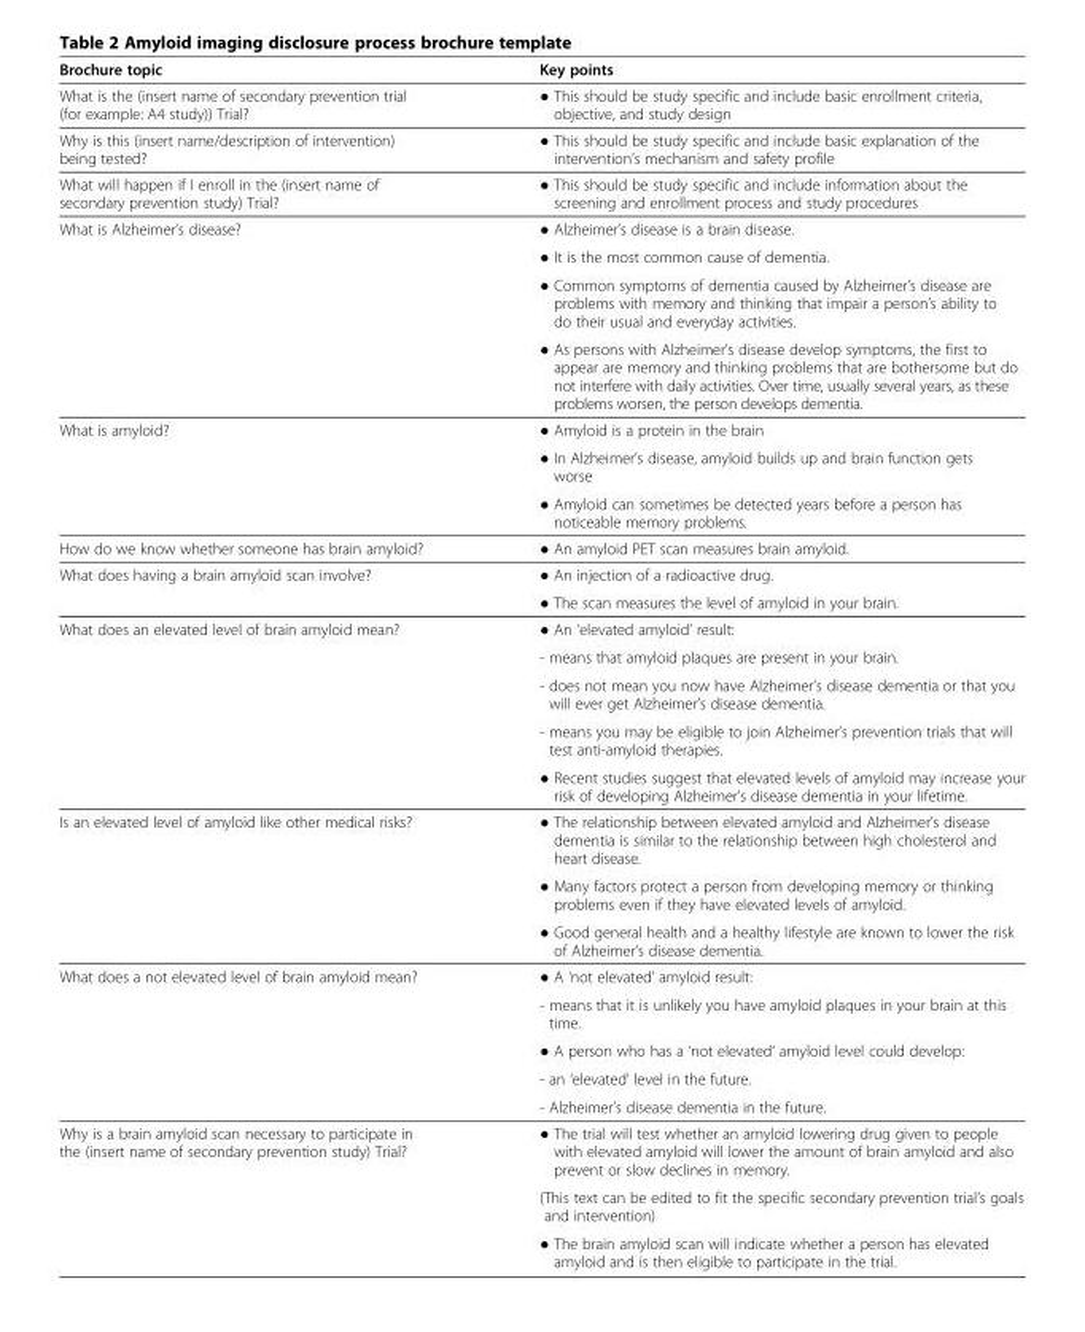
<table><thead><tr><td>Brochure topic</td><td>Key points</td></tr></thead><tbody><tr><td>What is the (insert name of secondary prevention trial (for example: A4 study)) Trial?</td><td>● This should be study specific and include basic enrollment criteria, objective, and study design</td></tr><tr><td>Why is this (insert name/description of intervention) being tested?</td><td>● This should be study specific and include basic explanation of the intervention’s mechanism and safety profile</td></tr><tr><td>What will happen if I enroll in the (insert name of secondary prevention study) Trial?</td><td>● This should be study specific and include information about the screening and enrollment process and study procedures</td></tr><tr><td rowspan="4">What is Alzheimer’s disease?</td><td>● Alzheimer’s disease is a brain disease.</td></tr><tr><td>● It is the most common cause of dementia.</td></tr><tr><td>● Common symptoms of dementia caused by Alzheimer’s disease are problems with memory and thinking that impair a person’s ability to do their usual and everyday activities.</td></tr><tr><td>● As persons with Alzheimer’s disease develop symptoms, the first to appear are memory and thinking problems that are bothersome but do not interfere with daily activities. Over time, usually several years, as these problems worsen, the person develops dementia.</td></tr><tr><td rowspan="3">What is amyloid?</td><td>● Amyloid is a protein in the brain</td></tr><tr><td>● In Alzheimer’s disease, amyloid builds up and brain function gets worse</td></tr><tr><td>● Amyloid can sometimes be detected years before a person has noticeable memory problems.</td></tr><tr><td>How do we know whether someone has brain amyloid?</td><td>● An amyloid PET scan measures brain amyloid.</td></tr><tr><td rowspan="2">What does having a brain amyloid scan involve?</td><td>● An injection of a radioactive drug.</td></tr><tr><td>● The scan measures the level of amyloid in your brain.</td></tr><tr><td rowspan="5">What does an elevated level of brain amyloid mean?</td><td>● An ‘elevated amyloid’ result:</td></tr><tr><td>- means that amyloid plaques are present in your brain.</td></tr><tr><td>- does not mean you now have Alzheimer’s disease dementia or that you will ever get Alzheimer’s disease dementia.</td></tr><tr><td>- means you may be eligible to join Alzheimer’s prevention trials that will test anti-amyloid therapies.</td></tr><tr><td>● Recent studies suggest that elevated levels of amyloid may increase your risk of developing Alzheimer’s disease dementia in your lifetime.</td></tr><tr><td rowspan="3">Is an elevated level of amyloid like other medical risks?</td><td>● The relationship between elevated amyloid and Alzheimer’s disease dementia is similar to the relationship between high cholesterol and heart disease.</td></tr><tr><td>● Many factors protect a person from developing memory or thinking problems even if they have elevated levels of amyloid.</td></tr><tr><td>● Good general health and a healthy lifestyle are known to lower the risk of Alzheimer’s disease dementia.</td></tr><tr><td rowspan="5">What does a not elevated level of brain amyloid mean?</td><td>● A ‘not elevated’ amyloid result:</td></tr><tr><td>- means that it is unlikely you have amyloid plaques in your brain at this time.</td></tr><tr><td>● A person who has a ‘not elevated’ amyloid level could develop:</td></tr><tr><td>- an ‘elevated’ level in the future.</td></tr><tr><td>- Alzheimer’s disease dementia in the future.</td></tr><tr><td rowspan="3">Why is a brain amyloid scan necessary to participate in the (insert name of secondary prevention study) Trial?</td><td>● The trial will test whether an amyloid lowering drug given to people with elevated amyloid will lower the amount of brain amyloid and also prevent or slow declines in memory.</td></tr><tr><td>(This text can be edited to fit the specific secondary prevention trial’s goals and intervention)</td></tr><tr><td>● The brain amyloid scan will indicate whether a person has elevated amyloid and is then eligible to participate in the trial.</td></tr></tbody></table>